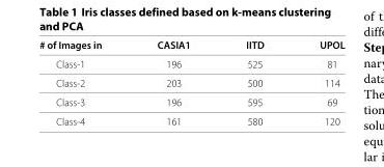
<table><thead><tr><td># of Images in</td><td>CASIA1</td><td>IITD</td><td>UPOL</td></tr></thead><tbody><tr><td>Class-1</td><td>196</td><td>525</td><td>81</td></tr><tr><td>Class-2</td><td>203</td><td>500</td><td>114</td></tr><tr><td>Class-3</td><td>196</td><td>595</td><td>69</td></tr><tr><td>Class-4</td><td>161</td><td>580</td><td>120</td></tr></tbody></table>